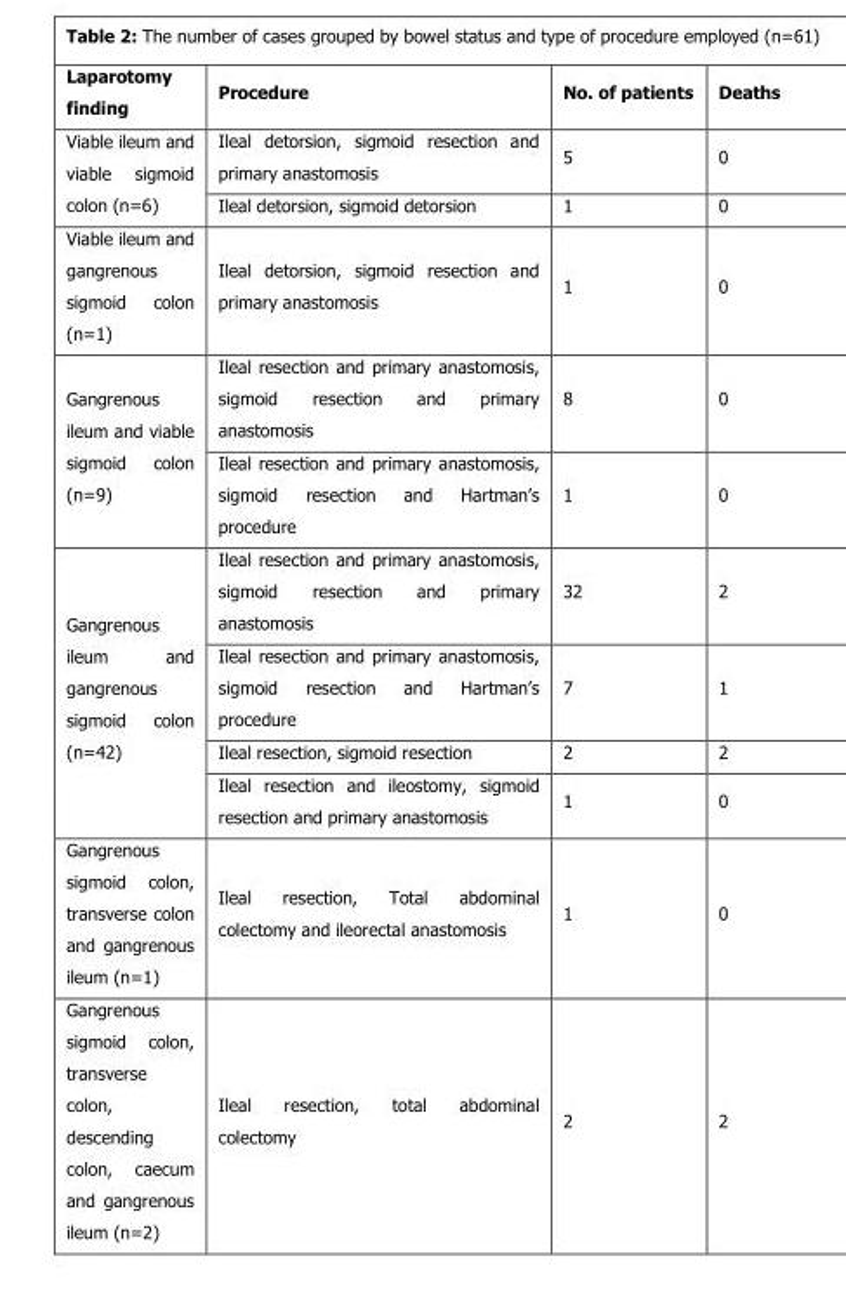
<table><thead><tr><td>Laparotomy finding</td><td>Procedure</td><td>No. of patients</td><td>Deaths</td></tr></thead><tbody><tr><td rowspan="2">Viable ileum and viable sigmoid colon (n=6)</td><td>Ileal detorsion, sigmoid resection and primary anastomosis</td><td>5</td><td>0</td></tr><tr><td>Ileal detorsion, sigmoid detorsion</td><td>1</td><td>0</td></tr><tr><td>Viable ileum and gangrenous sigmoid colon (n=1)</td><td>Ileal detorsion, sigmoid resection and primary anastomosis</td><td>1</td><td>0</td></tr><tr><td rowspan="2">Gangrenous ileum and viable sigmoid colon (n=9)</td><td>Ileal resection and primary anastomosis, sigmoid resection and primary anastomosis</td><td>8</td><td>0</td></tr><tr><td>Ileal resection and primary anastomosis, sigmoid resection and Hartman’s procedure</td><td>1</td><td>0</td></tr><tr><td rowspan="4">Gangrenous ileum and gangrenous sigmoid colon (n=42)</td><td>Ileal resection and primary anastomosis, sigmoid resection and primary anastomosis</td><td>32</td><td>2</td></tr><tr><td>Ileal resection and primary anastomosis, sigmoid resection and Hartman’s procedure</td><td>7</td><td>1</td></tr><tr><td>Ileal resection, sigmoid resection</td><td>2</td><td>2</td></tr><tr><td>Ileal resection and ileostomy, sigmoid resection and primary anastomosis</td><td>1</td><td>0</td></tr><tr><td>Gangrenous sigmoid colon, transverse colon and gangrenous ileum (n=1)</td><td>Ileal resection, Total abdominal colectomy and ileorectal anastomosis</td><td>1</td><td>0</td></tr><tr><td>Gangrenous sigmoid colon, transverse colon, descending colon, caecum and gangrenous ileum (n=2)</td><td>Ileal resection, total abdominal colectomy</td><td>2</td><td>2</td></tr></tbody></table>